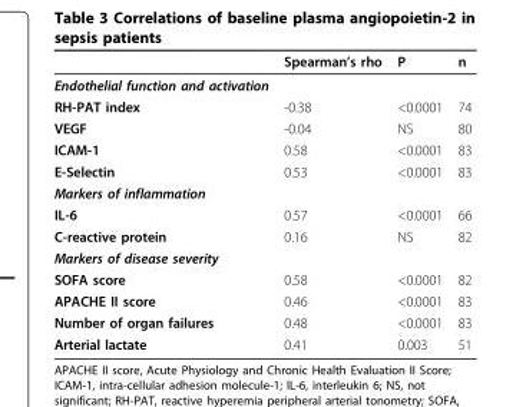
<table><thead><tr><td></td><td>Spearman’s rho</td><td>P</td><td>n</td></tr></thead><tbody><tr><td colspan="4">Endothelial function and activation</td></tr><tr><td>RH-PAT index</td><td>-0.38</td><td>&lt;0.0001</td><td>74</td></tr><tr><td>VEGF</td><td>-0.04</td><td>NS</td><td>80</td></tr><tr><td>ICAM-1</td><td>0.58</td><td>&lt;0.0001</td><td>83</td></tr><tr><td>E-Selectin</td><td>0.53</td><td>&lt;0.0001</td><td>83</td></tr><tr><td colspan="4">Markers of inflammation</td></tr><tr><td>IL-6</td><td>0.57</td><td>&lt;0.0001</td><td>66</td></tr><tr><td>C-reactive protein</td><td>0.16</td><td>NS</td><td>82</td></tr><tr><td colspan="4">Markers of disease severity</td></tr><tr><td>SOFA score</td><td>0.58</td><td>&lt;0.0001</td><td>82</td></tr><tr><td>APACHE II score</td><td>0.46</td><td>&lt;0.0001</td><td>83</td></tr><tr><td>Number of organ failures</td><td>0.48</td><td>&lt;0.0001</td><td>83</td></tr><tr><td>Arterial lactate</td><td>0.41</td><td>0.003</td><td>51</td></tr></tbody></table>